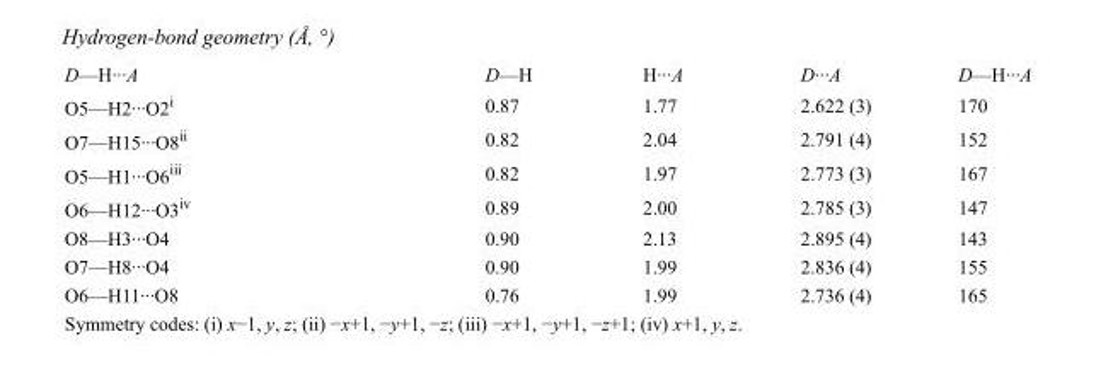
<table><tbody><tr><td>D—H···A</td><td>D—H</td><td>H···A</td><td>D···A</td><td>D—H···A</td></tr><tr><td>O5—H2···O2<sup>i</sup></td><td>0.87</td><td>1.77</td><td>2.622 (3)</td><td>170</td></tr><tr><td>O7—H15···O8<sup>ii</sup></td><td>0.82</td><td>2.04</td><td>2.791 (4)</td><td>152</td></tr><tr><td>O5—H1···O6<sup>iii</sup></td><td>0.82</td><td>1.97</td><td>2.773 (3)</td><td>167</td></tr><tr><td>O6—H12···O3<sup>iv</sup></td><td>0.89</td><td>2.00</td><td>2.785 (3)</td><td>147</td></tr><tr><td>O8—H3···O4</td><td>0.90</td><td>2.13</td><td>2.895 (4)</td><td>143</td></tr><tr><td>O7—H8···O4</td><td>0.90</td><td>1.99</td><td>2.836 (4)</td><td>155</td></tr><tr><td>O6—H11···O8</td><td>0.76</td><td>1.99</td><td>2.736 (4)</td><td>165</td></tr></tbody></table>